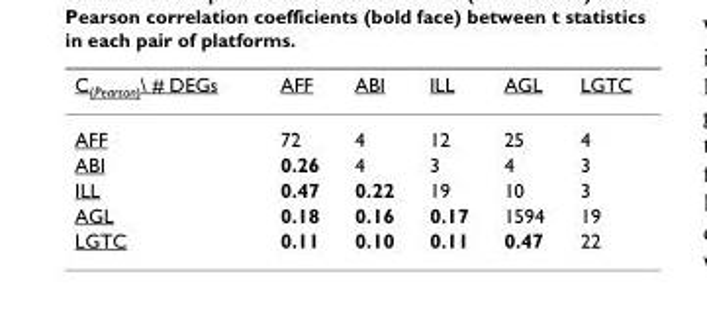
<table><thead><tr><td>C<sub>(Pearson)</sub>\ # DEGs</td><td>AFF</td><td>ABI</td><td>ILL</td><td>AGL</td><td>LGTC</td></tr></thead><tbody><tr><td>AFF</td><td>72</td><td>4</td><td>12</td><td>25</td><td>4</td></tr><tr><td>ABI</td><td>0.26</td><td>4</td><td>3</td><td>4</td><td>3</td></tr><tr><td>ILL</td><td>0.47</td><td>0.22</td><td>19</td><td>10</td><td>3</td></tr><tr><td>AGL</td><td>0.18</td><td>0.16</td><td>0.17</td><td>1594</td><td>19</td></tr><tr><td>LGTC</td><td>0.11</td><td>0.10</td><td>0.11</td><td>0.47</td><td>22</td></tr></tbody></table>